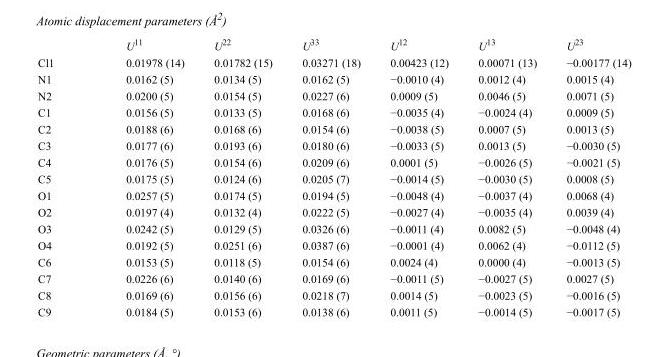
<table><thead><tr><td></td><td>U<sup>11</sup></td><td>U<sup>22</sup></td><td>U<sup>33</sup></td><td>U<sup>12</sup></td><td>U<sup>13</sup></td><td>U<sup>23</sup></td></tr></thead><tbody><tr><td>Cl1</td><td>0.01978 (14)</td><td>0.01782 (15)</td><td>0.03271 (18)</td><td>0.00423 (12)</td><td>0.00071 (13)</td><td>−0.00177 (14)</td></tr><tr><td>N1</td><td>0.0162 (5)</td><td>0.0134 (5)</td><td>0.0162 (5)</td><td>−0.0010 (4)</td><td>0.0012 (4)</td><td>0.0015 (4)</td></tr><tr><td>N2</td><td>0.0200 (5)</td><td>0.0154 (5)</td><td>0.0227 (6)</td><td>0.0009 (5)</td><td>0.0046 (5)</td><td>0.0071 (5)</td></tr><tr><td>C1</td><td>0.0156 (5)</td><td>0.0133 (5)</td><td>0.0168 (6)</td><td>−0.0035 (4)</td><td>−0.0024 (4)</td><td>0.0009 (5)</td></tr><tr><td>C2</td><td>0.0188 (6)</td><td>0.0168 (6)</td><td>0.0154 (6)</td><td>−0.0038 (5)</td><td>0.0007 (5)</td><td>0.0013 (5)</td></tr><tr><td>C3</td><td>0.0177 (6)</td><td>0.0193 (6)</td><td>0.0180 (6)</td><td>−0.0033 (5)</td><td>0.0013 (5)</td><td>−0.0030 (5)</td></tr><tr><td>C4</td><td>0.0176 (5)</td><td>0.0154 (6)</td><td>0.0209 (6)</td><td>0.0001 (5)</td><td>−0.0026 (5)</td><td>−0.0021 (5)</td></tr><tr><td>C5</td><td>0.0175 (5)</td><td>0.0124 (6)</td><td>0.0205 (7)</td><td>−0.0014 (5)</td><td>−0.0030 (5)</td><td>0.0008 (5)</td></tr><tr><td>O1</td><td>0.0257 (5)</td><td>0.0174 (5)</td><td>0.0194 (5)</td><td>−0.0048 (4)</td><td>−0.0037 (4)</td><td>0.0068 (4)</td></tr><tr><td>O2</td><td>0.0197 (4)</td><td>0.0132 (4)</td><td>0.0222 (5)</td><td>−0.0027 (4)</td><td>−0.0035 (4)</td><td>0.0039 (4)</td></tr><tr><td>O3</td><td>0.0242 (5)</td><td>0.0129 (5)</td><td>0.0326 (6)</td><td>−0.0011 (4)</td><td>0.0082 (5)</td><td>−0.0048 (4)</td></tr><tr><td>O4</td><td>0.0192 (5)</td><td>0.0251 (6)</td><td>0.0387 (6)</td><td>−0.0001 (4)</td><td>0.0062 (4)</td><td>−0.0112 (5)</td></tr><tr><td>C6</td><td>0.0153 (5)</td><td>0.0118 (5)</td><td>0.0154 (6)</td><td>0.0024 (4)</td><td>0.0000 (4)</td><td>−0.0013 (5)</td></tr><tr><td>C7</td><td>0.0226 (6)</td><td>0.0140 (6)</td><td>0.0169 (6)</td><td>−0.0011 (5)</td><td>−0.0027 (5)</td><td>0.0027 (5)</td></tr><tr><td>C8</td><td>0.0169 (6)</td><td>0.0156 (6)</td><td>0.0218 (7)</td><td>0.0014 (5)</td><td>−0.0023 (5)</td><td>−0.0016 (5)</td></tr><tr><td>C9</td><td>0.0184 (5)</td><td>0.0153 (6)</td><td>0.0138 (6)</td><td>0.0011 (5)</td><td>−0.0014 (5)</td><td>−0.0017 (5)</td></tr></tbody></table>